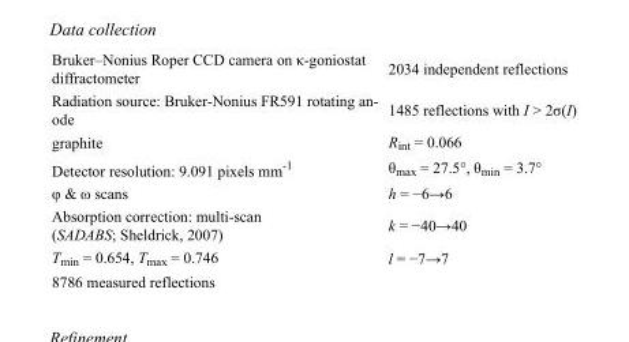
<table><tbody><tr><td>Bruker–Nonius Roper CCD camera on κ-goniostat diffractometer</td><td>2034 independent reflections</td></tr><tr><td>Radiation source: Bruker-Nonius FR591 rotating an- ode</td><td>1485 reflections with I &gt; 2σ(I)</td></tr><tr><td>graphite</td><td>R<sub>int</sub> = 0.066</td></tr><tr><td>Detector resolution: 9.091 pixels mm<sup>-1</sup></td><td>θ<sub>max</sub> = 27.5°, θ<sub>min</sub> = 3.7°</td></tr><tr><td>φ &amp; ω scans</td><td>h = −6→6</td></tr><tr><td>Absorption correction: multi-scan (SADABS; Sheldrick, 2007)</td><td>k = −40→40</td></tr><tr><td>T<sub>min</sub> = 0.654, T<sub>max</sub> = 0.746</td><td>l = −7→7</td></tr><tr><td>8786 measured reflections</td><td></td></tr></tbody></table>